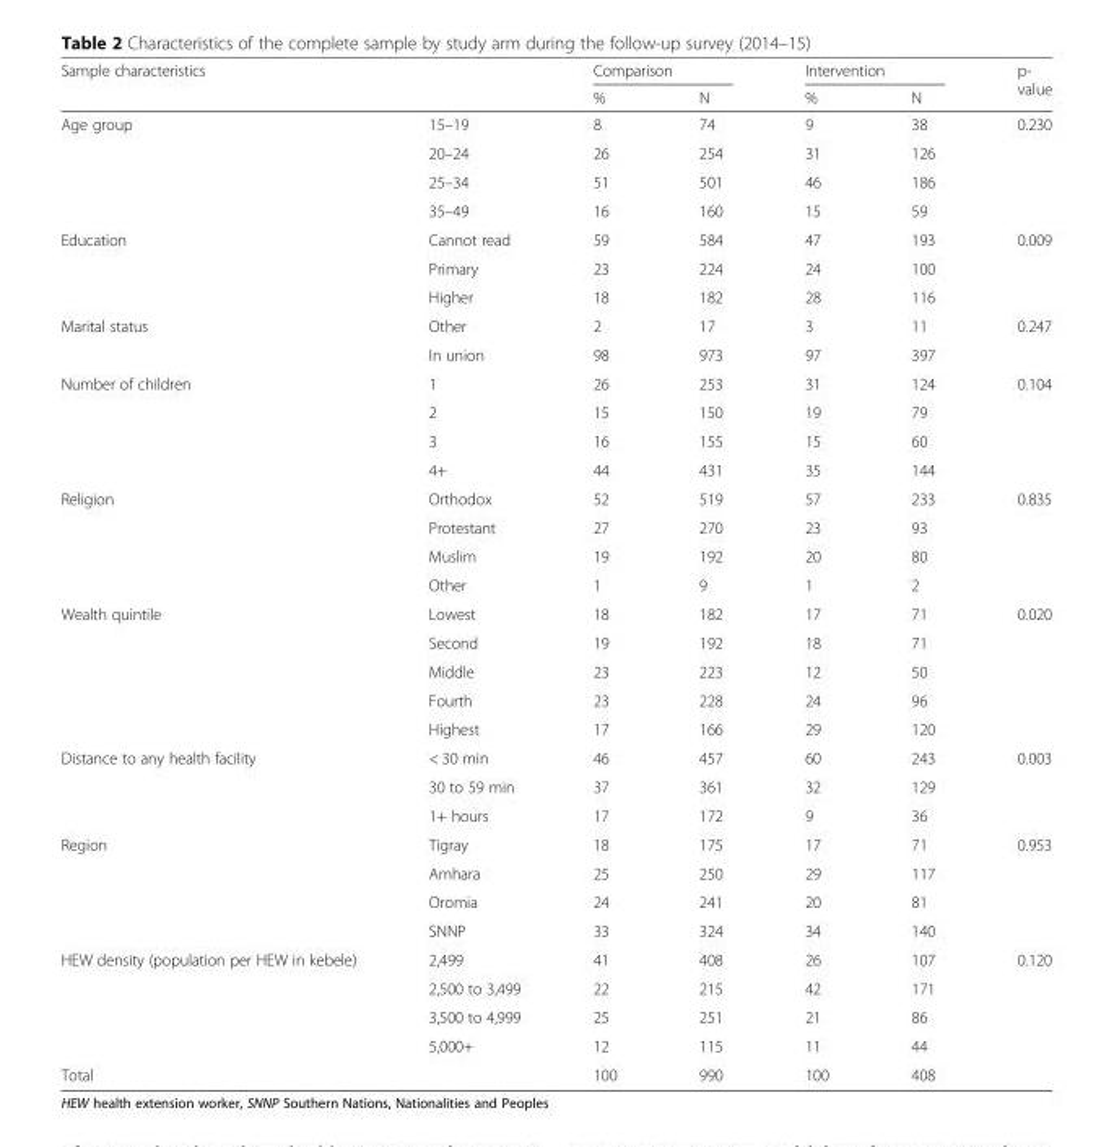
<table><thead><tr><td rowspan="2">Sample characteristics</td><td rowspan="2"></td><td colspan="2">Comparison</td><td colspan="2">Intervention</td><td rowspan="2">p- value</td></tr><tr><td>%</td><td>N</td><td>%</td><td>N</td></tr></thead><tbody><tr><td rowspan="4">Age group</td><td>15–19</td><td>8</td><td>74</td><td>9</td><td>38</td><td>0.230</td></tr><tr><td>20–24</td><td>26</td><td>254</td><td>31</td><td>126</td><td></td></tr><tr><td>25–34</td><td>51</td><td>501</td><td>46</td><td>186</td><td></td></tr><tr><td>35–49</td><td>16</td><td>160</td><td>15</td><td>59</td><td></td></tr><tr><td rowspan="3">Education</td><td>Cannot read</td><td>59</td><td>584</td><td>47</td><td>193</td><td>0.009</td></tr><tr><td>Primary</td><td>23</td><td>224</td><td>24</td><td>100</td><td></td></tr><tr><td>Higher</td><td>18</td><td>182</td><td>28</td><td>116</td><td></td></tr><tr><td rowspan="2">Marital status</td><td>Other</td><td>2</td><td>17</td><td>3</td><td>11</td><td>0.247</td></tr><tr><td>In union</td><td>98</td><td>973</td><td>97</td><td>397</td><td></td></tr><tr><td rowspan="4">Number of children</td><td>1</td><td>26</td><td>253</td><td>31</td><td>124</td><td>0.104</td></tr><tr><td>2</td><td>15</td><td>150</td><td>19</td><td>79</td><td></td></tr><tr><td>3</td><td>16</td><td>155</td><td>15</td><td>60</td><td></td></tr><tr><td>4+</td><td>44</td><td>431</td><td>35</td><td>144</td><td></td></tr><tr><td rowspan="4">Religion</td><td>Orthodox</td><td>52</td><td>519</td><td>57</td><td>233</td><td>0.835</td></tr><tr><td>Protestant</td><td>27</td><td>270</td><td>23</td><td>93</td><td></td></tr><tr><td>Muslim</td><td>19</td><td>192</td><td>20</td><td>80</td><td></td></tr><tr><td>Other</td><td>1</td><td>9</td><td>1</td><td>2</td><td></td></tr><tr><td rowspan="5">Wealth quintile</td><td>Lowest</td><td>18</td><td>182</td><td>17</td><td>71</td><td>0.020</td></tr><tr><td>Second</td><td>19</td><td>192</td><td>18</td><td>71</td><td></td></tr><tr><td>Middle</td><td>23</td><td>223</td><td>12</td><td>50</td><td></td></tr><tr><td>Fourth</td><td>23</td><td>228</td><td>24</td><td>96</td><td></td></tr><tr><td>Highest</td><td>17</td><td>166</td><td>29</td><td>120</td><td></td></tr><tr><td rowspan="3">Distance to any health facility</td><td>&lt; 30 min</td><td>46</td><td>457</td><td>60</td><td>243</td><td>0.003</td></tr><tr><td>30 to 59 min</td><td>37</td><td>361</td><td>32</td><td>129</td><td></td></tr><tr><td>1+ hours</td><td>17</td><td>172</td><td>9</td><td>36</td><td></td></tr><tr><td rowspan="4">Region</td><td>Tigray</td><td>18</td><td>175</td><td>17</td><td>71</td><td>0.953</td></tr><tr><td>Amhara</td><td>25</td><td>250</td><td>29</td><td>117</td><td></td></tr><tr><td>Oromia</td><td>24</td><td>241</td><td>20</td><td>81</td><td></td></tr><tr><td>SNNP</td><td>33</td><td>324</td><td>34</td><td>140</td><td></td></tr><tr><td rowspan="4">HEW density (population per HEW in kebele)</td><td>2,499</td><td>41</td><td>408</td><td>26</td><td>107</td><td>0.120</td></tr><tr><td>2,500 to 3,499</td><td>22</td><td>215</td><td>42</td><td>171</td><td></td></tr><tr><td>3,500 to 4,999</td><td>25</td><td>251</td><td>21</td><td>86</td><td></td></tr><tr><td>5,000+</td><td>12</td><td>115</td><td>11</td><td>44</td><td></td></tr><tr><td>Total</td><td></td><td>100</td><td>990</td><td>100</td><td>408</td><td></td></tr></tbody></table>